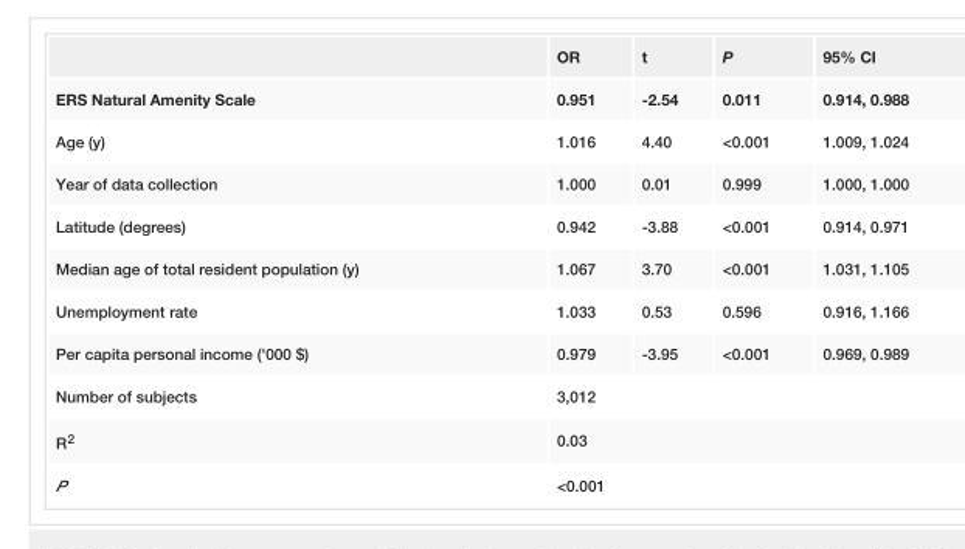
<table><thead><tr><td></td><td>OR</td><td>t</td><td>P</td><td>95% CI</td></tr></thead><tbody><tr><td>ERS Natural Amenity Scale</td><td>0.951</td><td>-2.54</td><td>0.011</td><td>0.914, 0.988</td></tr><tr><td>Age (y)</td><td>1.016</td><td>4.40</td><td>&lt;0.001</td><td>1.009, 1.024</td></tr><tr><td>Year of data collection</td><td>1.000</td><td>0.01</td><td>0.999</td><td>1.000, 1.000</td></tr><tr><td>Latitude (degrees)</td><td>0.942</td><td>-3.88</td><td>&lt;0.001</td><td>0.914, 0.971</td></tr><tr><td>Median age of total resident population (y)</td><td>1.067</td><td>3.70</td><td>&lt;0.001</td><td>1.031, 1.105</td></tr><tr><td>Unemployment rate</td><td>1.033</td><td>0.53</td><td>0.596</td><td>0.916, 1.166</td></tr><tr><td>Per capita personal income (&#x27;000 $)</td><td>0.979</td><td>-3.95</td><td>&lt;0.001</td><td>0.969, 0.989</td></tr><tr><td>Number of subjects</td><td colspan="4">3,012</td></tr><tr><td>R<sup>2</sup></td><td colspan="4">0.03</td></tr><tr><td>P</td><td colspan="4">&lt;0.001</td></tr></tbody></table>